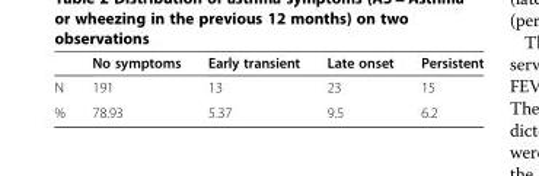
<table><thead><tr><td></td><td>No symptoms</td><td>Early transient</td><td>Late onset</td><td>Persistent</td></tr></thead><tbody><tr><td>N</td><td>191</td><td>13</td><td>23</td><td>15</td></tr><tr><td>%</td><td>78.93</td><td>5.37</td><td>9.5</td><td>6.2</td></tr></tbody></table>